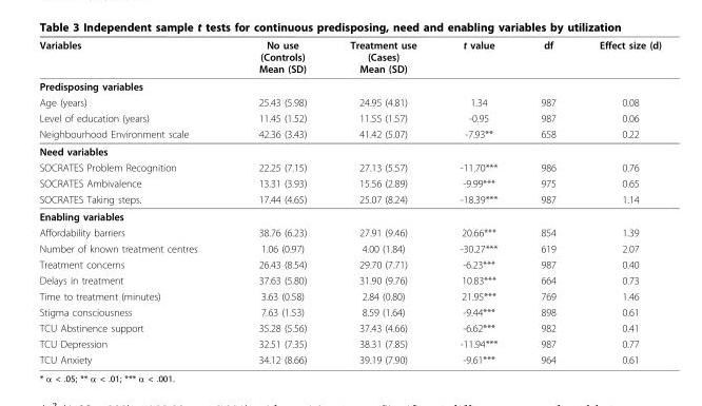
<table><thead><tr><td>Variables</td><td>No use (Controls) Mean (SD)</td><td>Treatment use (Cases) Mean (SD)</td><td>t value</td><td>df</td><td>Effect size (d)</td></tr></thead><tbody><tr><td colspan="6">Predisposing variables</td></tr><tr><td>Age (years)</td><td>25.43 (5.98)</td><td>24.95 (4.81)</td><td>1.34</td><td>987</td><td>0.08</td></tr><tr><td>Level of education (years)</td><td>11.45 (1.52)</td><td>11.55 (1.57)</td><td>-0.95</td><td>987</td><td>0.06</td></tr><tr><td>Neighbourhood Environment scale</td><td>42.36 (3.43)</td><td>41.42 (5.07)</td><td>-7.93**</td><td>658</td><td>0.22</td></tr><tr><td colspan="6">Need variables</td></tr><tr><td>SOCRATES Problem Recognition</td><td>22.25 (7.15)</td><td>27.13 (5.57)</td><td>-11.70***</td><td>986</td><td>0.76</td></tr><tr><td>SOCRATES Ambivalence</td><td>13.31 (3.93)</td><td>15.56 (2.89)</td><td>-9.99***</td><td>975</td><td>0.65</td></tr><tr><td>SOCRATES Taking steps.</td><td>17.44 (4.65)</td><td>25.07 (8.24)</td><td>-18.39***</td><td>987</td><td>1.14</td></tr><tr><td colspan="6">Enabling variables</td></tr><tr><td>Affordability barriers</td><td>38.76 (6.23)</td><td>27.91 (9.46)</td><td>20.66***</td><td>854</td><td>1.39</td></tr><tr><td>Number of known treatment centres</td><td>1.06 (0.97)</td><td>4.00 (1.84)</td><td>-30.27***</td><td>619</td><td>2.07</td></tr><tr><td>Treatment concerns</td><td>26.43 (8.54)</td><td>29.70 (7.71)</td><td>-6.23***</td><td>987</td><td>0.40</td></tr><tr><td>Delays in treatment</td><td>37.63 (5.80)</td><td>31.90 (9.76)</td><td>10.83***</td><td>664</td><td>0.73</td></tr><tr><td>Time to treatment (minutes)</td><td>3.63 (0.58)</td><td>2.84 (0.80)</td><td>21.95***</td><td>769</td><td>1.46</td></tr><tr><td>Stigma consciousness</td><td>7.63 (1.53)</td><td>8.59 (1.64)</td><td>-9.44***</td><td>898</td><td>0.61</td></tr><tr><td>TCU Abstinence support</td><td>35.28 (5.56)</td><td>37.43 (4.66)</td><td>-6.62***</td><td>982</td><td>0.41</td></tr><tr><td>TCU Depression</td><td>32.51 (7.35)</td><td>38.31 (7.85)</td><td>-11.94***</td><td>987</td><td>0.77</td></tr><tr><td>TCU Anxiety</td><td>34.12 (8.66)</td><td>39.19 (7.90)</td><td>-9.61***</td><td>964</td><td>0.61</td></tr></tbody></table>